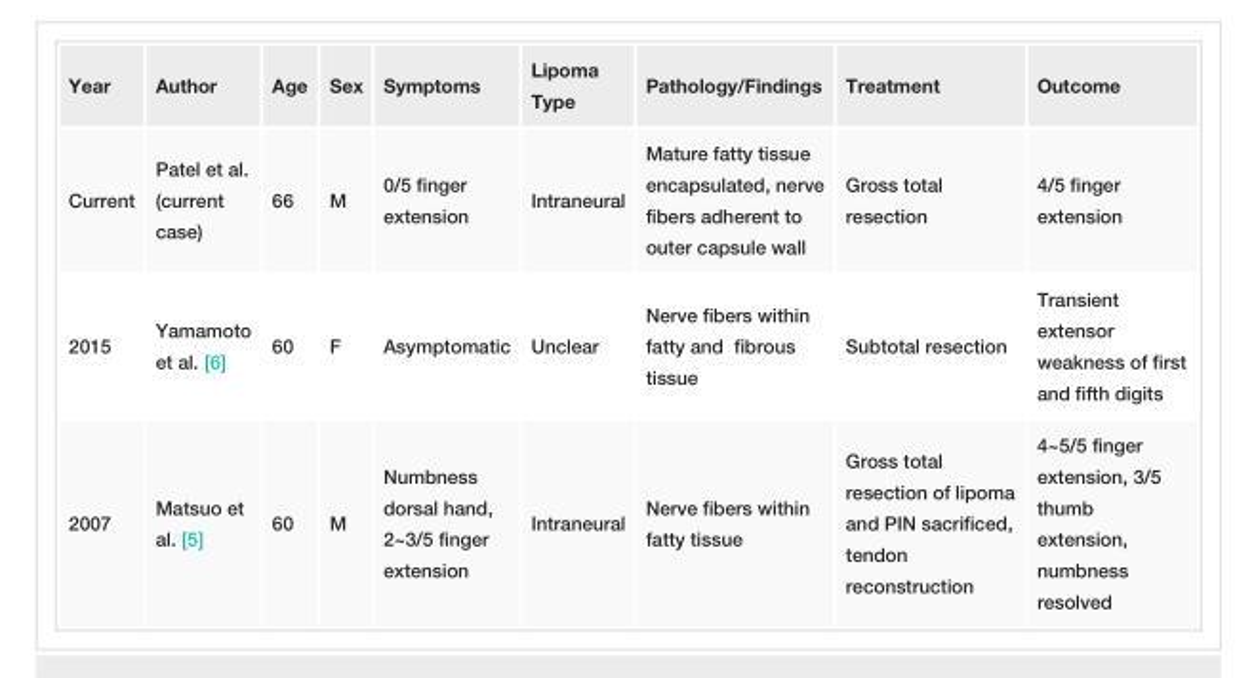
<table><tbody><tr><td>Year</td><td>Author</td><td>Age</td><td>Sex</td><td>Symptoms</td><td>Lipoma Type</td><td>Pathology/Findings</td><td>Treatment</td><td>Outcome</td></tr><tr><td>Current</td><td>Patel et al. (current case)</td><td>66</td><td>M</td><td>0/5 finger extension</td><td>Intraneural</td><td>Mature fatty tissue encapsulated, nerve fibers adherent to outer capsule wall</td><td>Gross total resection</td><td>4/5 finger extension</td></tr><tr><td>2015</td><td>Yamamoto et al. [6]</td><td>60</td><td>F</td><td>Asymptomatic</td><td>Unclear</td><td>Nerve fibers within fatty and fibrous tissue</td><td>Subtotal resection</td><td>Transient extensor weakness of first and fifth digits</td></tr><tr><td>2007</td><td>Matsuo et al. [5]</td><td>60</td><td>M</td><td>Numbness dorsal hand, 2~3/5 finger extension</td><td>Intraneural</td><td>Nerve fibers within fatty tissue</td><td>Gross total resection of lipoma and PIN sacrificed, tendon reconstruction</td><td>4~5/5 finger extension, 3/5 thumb extension, numbness resolved</td></tr></tbody></table>